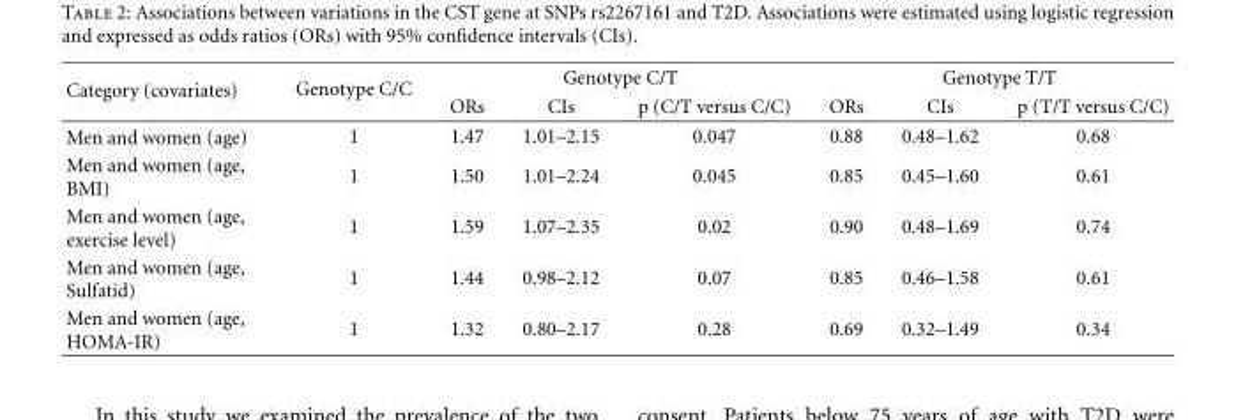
<table><thead><tr><td rowspan="2">Category (covariates)</td><td rowspan="2">Genotype C/C</td><td colspan="3">Genotype C/T</td><td colspan="3">Genotype T/T</td></tr><tr><td>ORs</td><td>CIs</td><td>p (C/T versus C/C)</td><td>ORs</td><td>CIs</td><td>p (T/T versus C/C)</td></tr></thead><tbody><tr><td>Men and women (age)</td><td>1</td><td>1.47</td><td>1.01–2.15</td><td>0.047</td><td>0.88</td><td>0.48–1.62</td><td>0.68</td></tr><tr><td>Men and women (age, BMI)</td><td>1</td><td>1.50</td><td>1.01–2.24</td><td>0.045</td><td>0.85</td><td>0.45–1.60</td><td>0.61</td></tr><tr><td>Men and women (age, exercise level)</td><td>1</td><td>1.59</td><td>1.07–2.35</td><td>0.02</td><td>0.90</td><td>0.48–1.69</td><td>0.74</td></tr><tr><td>Men and women (age, Sulfatid)</td><td>1</td><td>1.44</td><td>0.98–2.12</td><td>0.07</td><td>0.85</td><td>0.46–1.58</td><td>0.61</td></tr><tr><td>Men and women (age, HOMA-IR)</td><td>1</td><td>1.32</td><td>0.80–2.17</td><td>0.28</td><td>0.69</td><td>0.32–1.49</td><td>0.34</td></tr></tbody></table>